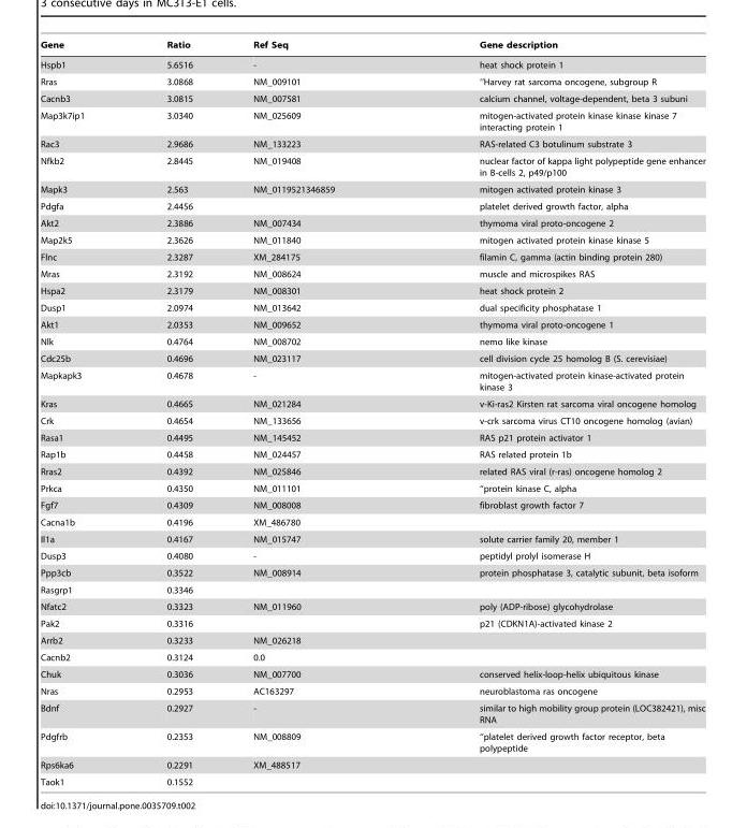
<table><thead><tr><td>Gene</td><td>Ratio</td><td>Ref Seq</td><td>Gene description</td></tr></thead><tbody><tr><td>Hspb1</td><td>5.6516</td><td>-</td><td>heat shock protein 1</td></tr><tr><td>Rras</td><td>3.0868</td><td>NM_009101</td><td>‘‘Harvey rat sarcoma oncogene, subgroup R</td></tr><tr><td>Cacnb3</td><td>3.0815</td><td>NM_007581</td><td>calcium channel, voltage-dependent, beta 3 subuni</td></tr><tr><td>Map3k7ip1</td><td>3.0340</td><td>NM_025609</td><td>mitogen-activated protein kinase kinase kinase 7 interacting protein 1</td></tr><tr><td>Rac3</td><td>2.9686</td><td>NM_133223</td><td>RAS-related C3 botulinum substrate 3</td></tr><tr><td>Nfkb2</td><td>2.8445</td><td>NM_019408</td><td>nuclear factor of kappa light polypeptide gene enhancer in B-cells 2, p49/p100</td></tr><tr><td>Mapk3</td><td>2.563</td><td>NM_0119521346859</td><td>mitogen activated protein kinase 3</td></tr><tr><td>Pdgfa</td><td>2.4456</td><td></td><td>platelet derived growth factor, alpha</td></tr><tr><td>Akt2</td><td>2.3886</td><td>NM_007434</td><td>thymoma viral proto-oncogene 2</td></tr><tr><td>Map2k5</td><td>2.3626</td><td>NM_011840</td><td>mitogen activated protein kinase kinase 5</td></tr><tr><td>Flnc</td><td>2.3287</td><td>XM_284175</td><td>filamin C, gamma (actin binding protein 280)</td></tr><tr><td>Mras</td><td>2.3192</td><td>NM_008624</td><td>muscle and microspikes RAS</td></tr><tr><td>Hspa2</td><td>2.3179</td><td>NM_008301</td><td>heat shock protein 2</td></tr><tr><td>Dusp1</td><td>2.0974</td><td>NM_013642</td><td>dual specificity phosphatase 1</td></tr><tr><td>Akt1</td><td>2.0353</td><td>NM_009652</td><td>thymoma viral proto-oncogene 1</td></tr><tr><td>Nlk</td><td>0.4764</td><td>NM_008702</td><td>nemo like kinase</td></tr><tr><td>Cdc25b</td><td>0.4696</td><td>NM_023117</td><td>cell division cycle 25 homolog B (S. cerevisiae)</td></tr><tr><td>Mapkapk3</td><td>0.4678</td><td>-</td><td>mitogen-activated protein kinase-activated protein kinase 3</td></tr><tr><td>Kras</td><td>0.4665</td><td>NM_021284</td><td>v-Ki-ras2 Kirsten rat sarcoma viral oncogene homolog</td></tr><tr><td>Crk</td><td>0.4654</td><td>NM_133656</td><td>v-crk sarcoma virus CT10 oncogene homolog (avian)</td></tr><tr><td>Rasa1</td><td>0.4495</td><td>NM_145452</td><td>RAS p21 protein activator 1</td></tr><tr><td>Rap1b</td><td>0.4458</td><td>NM_024457</td><td>RAS related protein 1b</td></tr><tr><td>Rras2</td><td>0.4392</td><td>NM_025846</td><td>related RAS viral (r-ras) oncogene homolog 2</td></tr><tr><td>Prkca</td><td>0.4350</td><td>NM_011101</td><td>‘‘protein kinase C, alpha</td></tr><tr><td>Fgf7</td><td>0.4309</td><td>NM_008008</td><td>fibroblast growth factor 7</td></tr><tr><td>Cacna1b</td><td>0.4196</td><td>XM_486780</td><td></td></tr><tr><td>Il1a</td><td>0.4167</td><td>NM_015747</td><td>solute carrier family 20, member 1</td></tr><tr><td>Dusp3</td><td>0.4080</td><td>-</td><td>peptidyl prolyl isomerase H</td></tr><tr><td>Ppp3cb</td><td>0.3522</td><td>NM_008914</td><td>protein phosphatase 3, catalytic subunit, beta isoform</td></tr><tr><td>Rasgrp1</td><td>0.3346</td><td></td><td></td></tr><tr><td>Nfatc2</td><td>0.3323</td><td>NM_011960</td><td>poly (ADP-ribose) glycohydrolase</td></tr><tr><td>Pak2</td><td>0.3316</td><td></td><td>p21 (CDKN1A)-activated kinase 2</td></tr><tr><td>Arrb2</td><td>0.3233</td><td>NM_026218</td><td></td></tr><tr><td>Cacnb2</td><td>0.3124</td><td>0.0</td><td></td></tr><tr><td>Chuk</td><td>0.3036</td><td>NM_007700</td><td>conserved helix-loop-helix ubiquitous kinase</td></tr><tr><td>Nras</td><td>0.2953</td><td>AC163297</td><td>neuroblastoma ras oncogene</td></tr><tr><td>Bdnf</td><td>0.2927</td><td>-</td><td>similar to high mobility group protein (LOC382421), misc RNA</td></tr><tr><td>Pdgfrb</td><td>0.2353</td><td>NM_008809</td><td>‘‘platelet derived growth factor receptor, beta polypeptide</td></tr><tr><td>Rps6ka6</td><td>0.2291</td><td>XM_488517</td><td></td></tr><tr><td>Taok1</td><td>0.1552</td><td></td><td></td></tr></tbody></table>